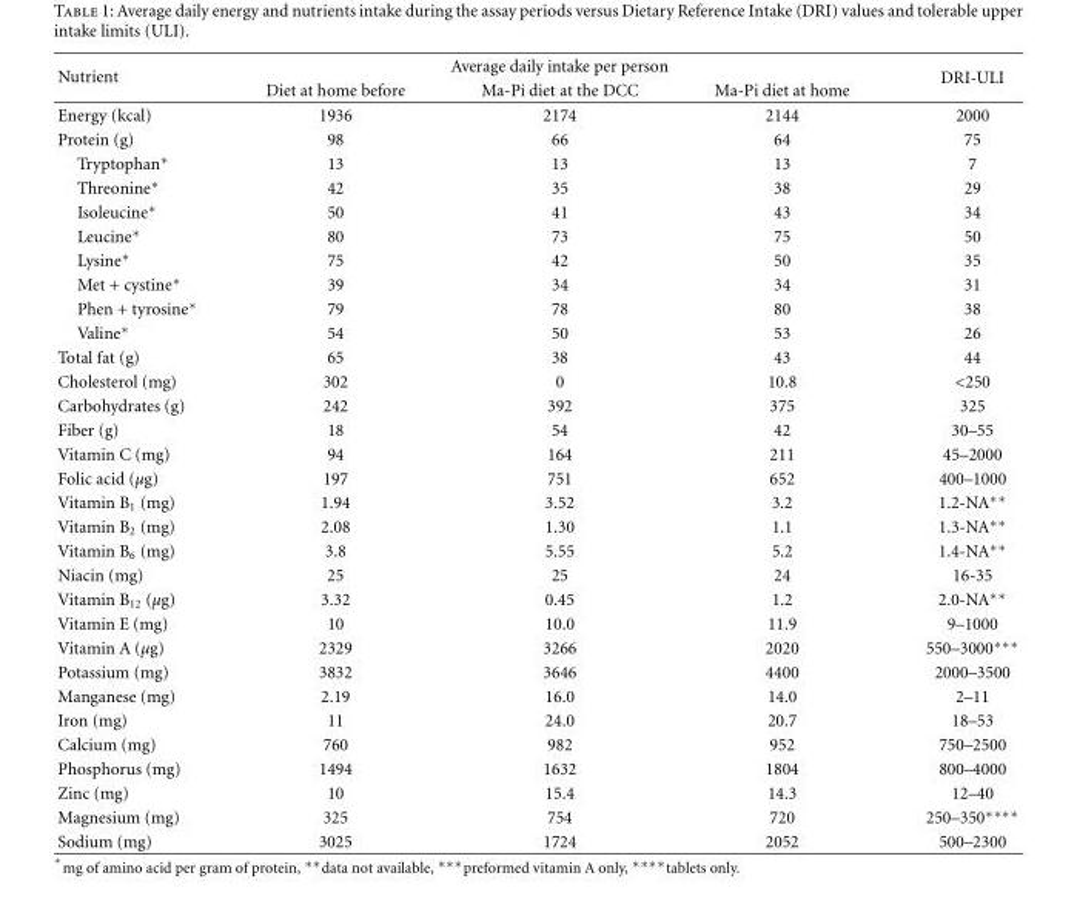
<table><thead><tr><td rowspan="2">Nutrient</td><td colspan="3">Average daily intake per person</td><td rowspan="2">DRI-ULI</td></tr><tr><td>Diet at home before</td><td>Ma-Pi diet at the DCC</td><td>Ma-Pi diet at home</td></tr></thead><tbody><tr><td>Energy (kcal)</td><td>1936</td><td>2174</td><td>2144</td><td>2000</td></tr><tr><td>Protein (g)</td><td>98</td><td>66</td><td>64</td><td>75</td></tr><tr><td>Tryptophan∗</td><td>13</td><td>13</td><td>13</td><td>7</td></tr><tr><td>Threonine∗</td><td>42</td><td>35</td><td>38</td><td>29</td></tr><tr><td>Isoleucine∗</td><td>50</td><td>41</td><td>43</td><td>34</td></tr><tr><td>Leucine∗</td><td>80</td><td>73</td><td>75</td><td>50</td></tr><tr><td>Lysine∗</td><td>75</td><td>42</td><td>50</td><td>35</td></tr><tr><td>Met + cystine∗</td><td>39</td><td>34</td><td>34</td><td>31</td></tr><tr><td>Phen + tyrosine∗</td><td>79</td><td>78</td><td>80</td><td>38</td></tr><tr><td>Valine∗</td><td>54</td><td>50</td><td>53</td><td>26</td></tr><tr><td>Total fat (g)</td><td>65</td><td>38</td><td>43</td><td>44</td></tr><tr><td>Cholesterol (mg)</td><td>302</td><td>0</td><td>10.8</td><td>&lt;250</td></tr><tr><td>Carbohydrates (g)</td><td>242</td><td>392</td><td>375</td><td>325</td></tr><tr><td>Fiber (g)</td><td>18</td><td>54</td><td>42</td><td>30–55</td></tr><tr><td>Vitamin C (mg)</td><td>94</td><td>164</td><td>211</td><td>45–2000</td></tr><tr><td>Folic acid (μg)</td><td>197</td><td>751</td><td>652</td><td>400–1000</td></tr><tr><td>Vitamin B<sub>1</sub> (mg)</td><td>1.94</td><td>3.52</td><td>3.2</td><td>1.2-NA∗∗</td></tr><tr><td>Vitamin B<sub>2</sub> (mg)</td><td>2.08</td><td>1.30</td><td>1.1</td><td>1.3-NA∗∗</td></tr><tr><td>Vitamin B<sub>6</sub> (mg)</td><td>3.8</td><td>5.55</td><td>5.2</td><td>1.4-NA∗∗</td></tr><tr><td>Niacin (mg)</td><td>25</td><td>25</td><td>24</td><td>16-35</td></tr><tr><td>Vitamin B<sub>12</sub> (μg)</td><td>3.32</td><td>0.45</td><td>1.2</td><td>2.0-NA∗∗</td></tr><tr><td>Vitamin E (mg)</td><td>10</td><td>10.0</td><td>11.9</td><td>9–1000</td></tr><tr><td>Vitamin A (μg)</td><td>2329</td><td>3266</td><td>2020</td><td>550–3000∗∗∗</td></tr><tr><td>Potassium (mg)</td><td>3832</td><td>3646</td><td>4400</td><td>2000–3500</td></tr><tr><td>Manganese (mg)</td><td>2.19</td><td>16.0</td><td>14.0</td><td>2–11</td></tr><tr><td>Iron (mg)</td><td>11</td><td>24.0</td><td>20.7</td><td>18–53</td></tr><tr><td>Calcium (mg)</td><td>760</td><td>982</td><td>952</td><td>750–2500</td></tr><tr><td>Phosphorus (mg)</td><td>1494</td><td>1632</td><td>1804</td><td>800–4000</td></tr><tr><td>Zinc (mg)</td><td>10</td><td>15.4</td><td>14.3</td><td>12–40</td></tr><tr><td>Magnesium (mg)</td><td>325</td><td>754</td><td>720</td><td>250–350∗∗∗∗</td></tr><tr><td>Sodium (mg)</td><td>3025</td><td>1724</td><td>2052</td><td>500–2300</td></tr></tbody></table>